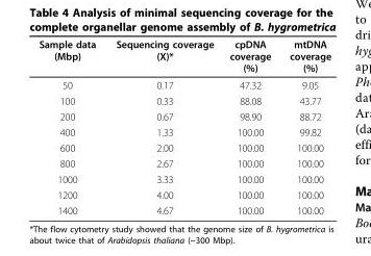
<table><thead><tr><td>Sample data (Mbp)</td><td>Sequencing coverage (X)*</td><td>cpDNA coverage (%)</td><td>mtDNA coverage (%)</td></tr></thead><tbody><tr><td>50</td><td>0.17</td><td>47.32</td><td>9.05</td></tr><tr><td>100</td><td>0.33</td><td>88.08</td><td>43.77</td></tr><tr><td>200</td><td>0.67</td><td>98.90</td><td>88.72</td></tr><tr><td>400</td><td>1.33</td><td>100.00</td><td>99.82</td></tr><tr><td>600</td><td>2.00</td><td>100.00</td><td>100.00</td></tr><tr><td>800</td><td>2.67</td><td>100.00</td><td>100.00</td></tr><tr><td>1000</td><td>3.33</td><td>100.00</td><td>100.00</td></tr><tr><td>1200</td><td>4.00</td><td>100.00</td><td>100.00</td></tr><tr><td>1400</td><td>4.67</td><td>100.00</td><td>100.00</td></tr></tbody></table>